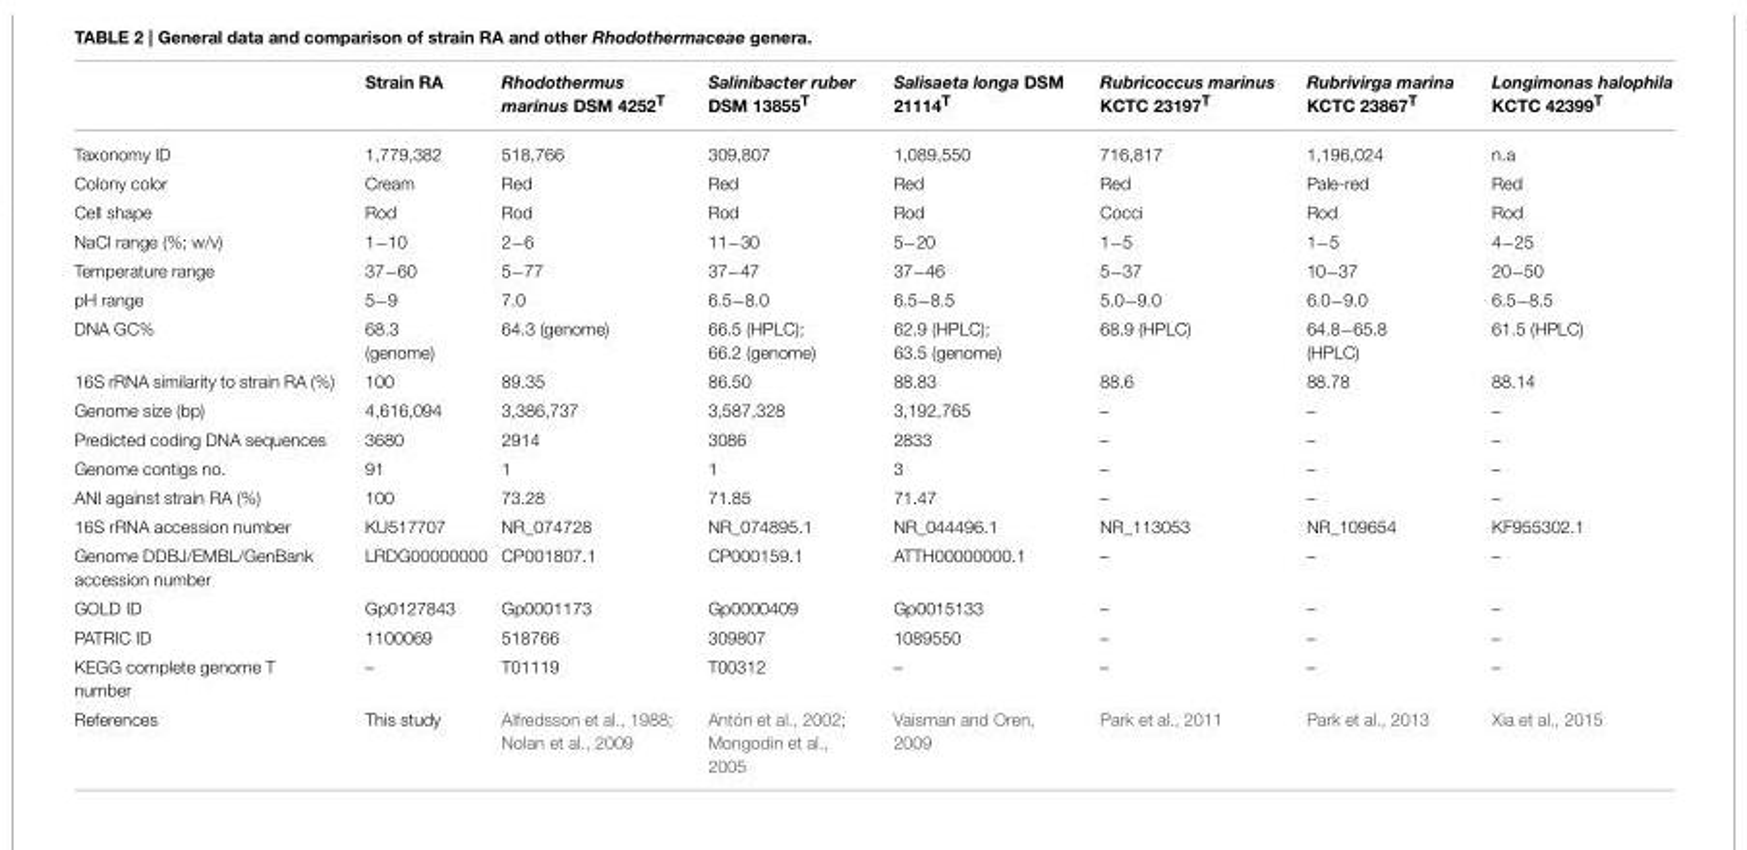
<table><thead><tr><td></td><td>Strain RA</td><td>Rhodothermus marinus DSM 4252<sup>T</sup></td><td>Salinibacter ruber DSM 13855<sup>T</sup></td><td>Salisaeta longa DSM 21114<sup>T</sup></td><td>Rubricoccus marinus KCTC 23197<sup>T</sup></td><td>Rubrivirga marina KCTC 23867<sup>T</sup></td><td>Longimonas halophila KCTC 42399<sup>T</sup></td></tr></thead><tbody><tr><td>Taxonomy ID</td><td>1,779,382</td><td>518,766</td><td>309,807</td><td>1,089,550</td><td>716,817</td><td>1,196,024</td><td>n.a</td></tr><tr><td>Colony color</td><td>Cream</td><td>Red</td><td>Red</td><td>Red</td><td>Red</td><td>Pale-red</td><td>Red</td></tr><tr><td>Cell shape</td><td>Rod</td><td>Rod</td><td>Rod</td><td>Rod</td><td>Cocci</td><td>Rod</td><td>Rod</td></tr><tr><td>NaCl range (%; w/v)</td><td>1−10</td><td>2−6</td><td>11−30</td><td>5−20</td><td>1−5</td><td>1−5</td><td>4−25</td></tr><tr><td>Temperature range</td><td>37−60</td><td>5−77</td><td>37−47</td><td>37−46</td><td>5−37</td><td>10−37</td><td>20−50</td></tr><tr><td>pH range</td><td>5−9</td><td>7.0</td><td>6.5−8.0</td><td>6.5−8.5</td><td>5.0−9.0</td><td>6.0−9.0</td><td>6.5−8.5</td></tr><tr><td>DNA GC%</td><td>68.3 (genome)</td><td>64.3 (genome)</td><td>66.5 (HPLC); 66.2 (genome)</td><td>62.9 (HPLC); 63.5 (genome)</td><td>68.9 (HPLC)</td><td>64.8−65.8 (HPLC)</td><td>61.5 (HPLC)</td></tr><tr><td>16S rRNA similarity to strain RA (%)</td><td>100</td><td>89.35</td><td>86.50</td><td>88.83</td><td>88.6</td><td>88.78</td><td>88.14</td></tr><tr><td>Genome size (bp)</td><td>4,616,094</td><td>3,386,737</td><td>3,587,328</td><td>3,192,765</td><td>–</td><td>–</td><td>–</td></tr><tr><td>Predicted coding DNA sequences</td><td>3680</td><td>2914</td><td>3086</td><td>2833</td><td>–</td><td>–</td><td>–</td></tr><tr><td>Genome contigs no.</td><td>91</td><td>1</td><td>1</td><td>3</td><td>–</td><td>–</td><td>–</td></tr><tr><td>ANI against strain RA (%)</td><td>100</td><td>73.28</td><td>71.85</td><td>71.47</td><td>–</td><td>–</td><td>–</td></tr><tr><td>16S rRNA accession number</td><td>KU517707</td><td>NR_074728</td><td>NR_074895.1</td><td>NR_044496.1</td><td>NR_113053</td><td>NR_109654</td><td>KF955302.1</td></tr><tr><td>Genome DDBJ/EMBL/GenBank accession number</td><td>LRDG00000000</td><td>CP001807.1</td><td>CP000159.1</td><td>ATTH00000000.1</td><td>–</td><td>–</td><td>–</td></tr><tr><td>GOLD ID</td><td>Gp0127843</td><td>Gp0001173</td><td>Gp0000409</td><td>Gp0015133</td><td>–</td><td>–</td><td>–</td></tr><tr><td>PATRIC ID</td><td>1100069</td><td>518766</td><td>309807</td><td>1089550</td><td>–</td><td>–</td><td>–</td></tr><tr><td>KEGG complete genome T number</td><td>–</td><td>T01119</td><td>T00312</td><td>–</td><td>–</td><td>–</td><td>–</td></tr><tr><td>References</td><td>This study</td><td>Alfredsson et al., 1988; Nolan et al., 2009</td><td>Antón et al., 2002; Mongodin et al., 2005</td><td>Vaisman and Oren, 2009</td><td>Park et al., 2011</td><td>Park et al., 2013</td><td>Xia et al., 2015</td></tr></tbody></table>